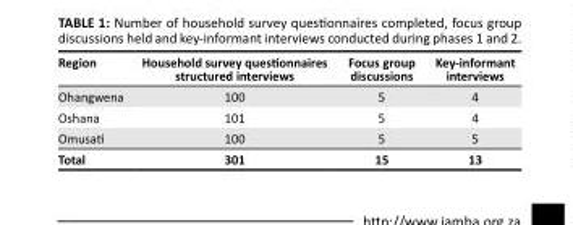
<table><thead><tr><td>Region</td><td>Household survey questionnaires structured interviews</td><td>Focus group discussions</td><td>Key-informant interviews</td></tr></thead><tbody><tr><td>Ohangwena</td><td>100</td><td>5</td><td>4</td></tr><tr><td>Oshana</td><td>101</td><td>5</td><td>4</td></tr><tr><td>Omusati</td><td>100</td><td>5</td><td>5</td></tr><tr><td>Total</td><td>301</td><td>15</td><td>13</td></tr></tbody></table>